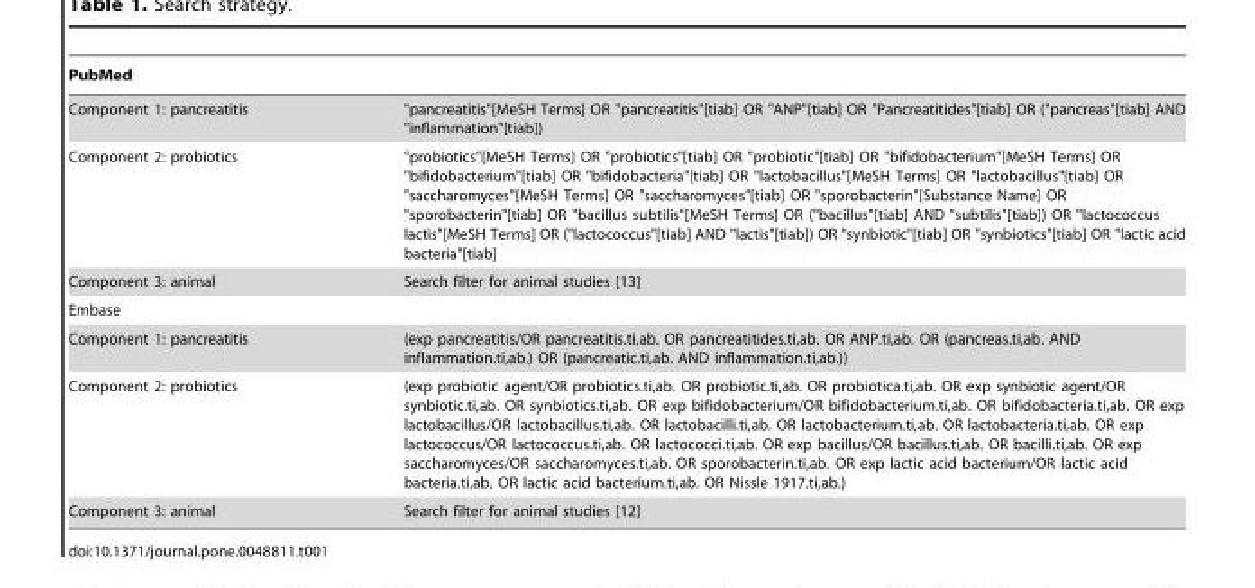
<table><thead><tr><td>PubMed</td><td></td></tr></thead><tbody><tr><td>Component 1: pancreatitis</td><td>&quot;pancreatitis&quot;[MeSH Terms] OR &quot;pancreatitis&quot;[tiab] OR &quot;ANP&quot;[tiab] OR &quot;Pancreatitides&quot;[tiab] OR (&quot;pancreas&quot;[tiab] AND &quot;inflammation&quot;[tiab])</td></tr><tr><td>Component 2: probiotics</td><td>&quot;probiotics&quot;[MeSH Terms] OR &quot;probiotics&quot;[tiab] OR &quot;probiotic&quot;[tiab] OR &quot;bifidobacterium&quot;[MeSH Terms] OR &quot;bifidobacterium&quot;[tiab] OR &quot;bifidobacteria&quot;[tiab] OR &quot;lactobacillus&quot;[MeSH Terms] OR &quot;lactobacillus&quot;[tiab] OR &quot;saccharomyces&quot;[MeSH Terms] OR &quot;saccharomyces&quot;[tiab] OR &quot;sporobacterin&quot;[Substance Name] OR &quot;sporobacterin&quot;[tiab] OR &quot;bacillus subtilis&quot;[MeSH Terms] OR (&quot;bacillus&quot;[tiab] AND &quot;subtilis&quot;[tiab]) OR &quot;lactococcus lactis&quot;[MeSH Terms] OR (&quot;lactococcus&quot;[tiab] AND &quot;lactis&quot;[tiab]) OR &quot;synbiotic&quot;[tiab] OR &quot;synbiotics&quot;[tiab] OR &quot;lactic acid bacteria&quot;[tiab]</td></tr><tr><td>Component 3: animal</td><td>Search filter for animal studies [13]</td></tr><tr><td colspan="2">Embase</td></tr><tr><td>Component 1: pancreatitis</td><td>(exp pancreatitis/OR pancreatitis.ti,ab. OR pancreatitides.ti,ab. OR ANP.ti,ab. OR (pancreas.ti,ab. AND inflammation.ti,ab.) OR (pancreatic.ti,ab. AND inflammation.ti,ab.))</td></tr><tr><td>Component 2: probiotics</td><td>(exp probiotic agent/OR probiotics.ti,ab. OR probiotic.ti,ab. OR probiotica.ti,ab. OR exp synbiotic agent/OR synbiotic.ti,ab. OR synbiotics.ti,ab. OR exp bifidobacterium/OR bifidobacterium.ti,ab. OR bifidobacteria.ti,ab. OR exp lactobacillus/OR lactobacillus.ti,ab. OR lactobacilli.ti,ab. OR lactobacterium.ti,ab. OR lactobacteria.ti,ab. OR exp lactococcus/OR lactococcus.ti,ab. OR lactococci.ti,ab. OR exp bacillus/OR bacillus.ti,ab. OR bacilli.ti,ab. OR exp saccharomyces/OR saccharomyces.ti,ab. OR sporobacterin.ti,ab. OR exp lactic acid bacterium/OR lactic acid bacteria.ti,ab. OR lactic acid bacterium.ti,ab. OR Nissle 1917.ti,ab.)</td></tr><tr><td>Component 3: animal</td><td>Search filter for animal studies [12]</td></tr></tbody></table>